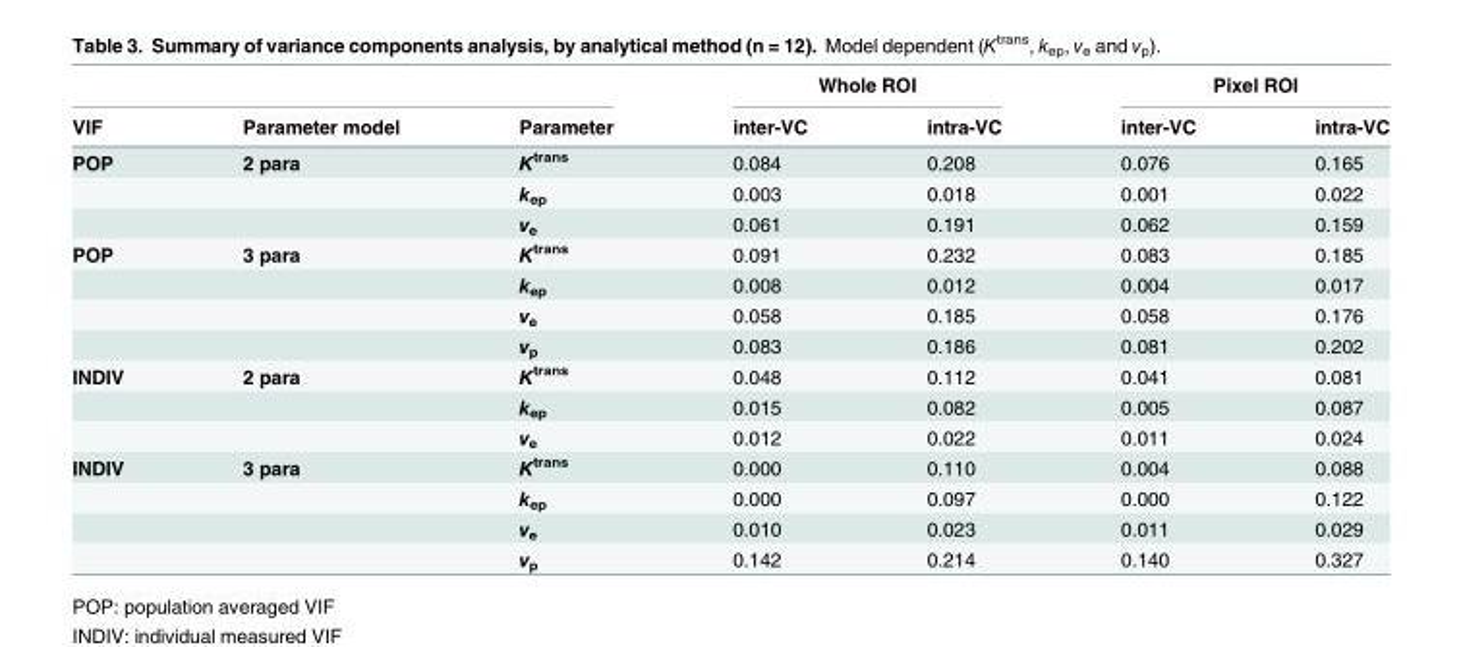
<table><thead><tr><td rowspan="2">VIF</td><td rowspan="2">Parameter model</td><td rowspan="2">Parameter</td><td colspan="2">Whole ROI</td><td colspan="2">Pixel ROI</td></tr><tr><td>inter-VC</td><td>intra-VC</td><td>inter-VC</td><td>intra-VC</td></tr></thead><tbody><tr><td rowspan="3">POP</td><td>2 para</td><td>K<sup>trans</sup></td><td>0.084</td><td>0.208</td><td>0.076</td><td>0.165</td></tr><tr><td></td><td>k<sub>ep</sub></td><td>0.003</td><td>0.018</td><td>0.001</td><td>0.022</td></tr><tr><td></td><td>v<sub>e</sub></td><td>0.061</td><td>0.191</td><td>0.062</td><td>0.159</td></tr><tr><td rowspan="4">POP</td><td>3 para</td><td>K<sup>trans</sup></td><td>0.091</td><td>0.232</td><td>0.083</td><td>0.185</td></tr><tr><td></td><td>k<sub>ep</sub></td><td>0.008</td><td>0.012</td><td>0.004</td><td>0.017</td></tr><tr><td></td><td>v<sub>e</sub></td><td>0.058</td><td>0.185</td><td>0.058</td><td>0.176</td></tr><tr><td></td><td>v<sub>p</sub></td><td>0.083</td><td>0.186</td><td>0.081</td><td>0.202</td></tr><tr><td rowspan="3">INDIV</td><td>2 para</td><td>K<sup>trans</sup></td><td>0.048</td><td>0.112</td><td>0.041</td><td>0.081</td></tr><tr><td></td><td>k<sub>ep</sub></td><td>0.015</td><td>0.082</td><td>0.005</td><td>0.087</td></tr><tr><td></td><td>v<sub>e</sub></td><td>0.012</td><td>0.022</td><td>0.011</td><td>0.024</td></tr><tr><td rowspan="4">INDIV</td><td>3 para</td><td>K<sup>trans</sup></td><td>0.000</td><td>0.110</td><td>0.004</td><td>0.088</td></tr><tr><td></td><td>k<sub>ep</sub></td><td>0.000</td><td>0.097</td><td>0.000</td><td>0.122</td></tr><tr><td></td><td>v<sub>e</sub></td><td>0.010</td><td>0.023</td><td>0.011</td><td>0.029</td></tr><tr><td></td><td>v<sub>p</sub></td><td>0.142</td><td>0.214</td><td>0.140</td><td>0.327</td></tr></tbody></table>